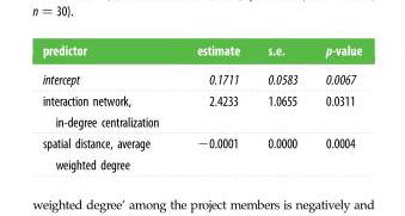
<table><thead><tr><td>predictor</td><td>estimate</td><td>s.e.</td><td>p-value</td></tr></thead><tbody><tr><td>intercept</td><td>0.1711</td><td>0.0583</td><td>0.0067</td></tr><tr><td>interaction network, in-degree centralization</td><td>2.4233</td><td>1.0655</td><td>0.0311</td></tr><tr><td>spatial distance, average weighted degree</td><td>−0.0001</td><td>0.0000</td><td>0.0004</td></tr></tbody></table>